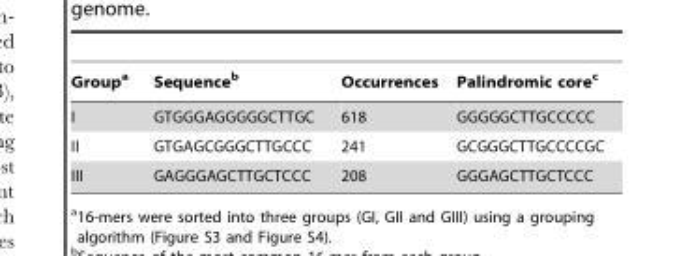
<table><thead><tr><td>Group<sup>a</sup></td><td>Sequence<sup>b</sup></td><td>Occurrences</td><td>Palindromic core<sup>c</sup></td></tr></thead><tbody><tr><td>I</td><td>GTGGGAGGGGGCTTGC</td><td>618</td><td>GGGGGCTTGCCCCC</td></tr><tr><td>II</td><td>GTGAGCGGGCTTGCCC</td><td>241</td><td>GCGGGCTTGCCCCGC</td></tr><tr><td>III</td><td>GAGGGAGCTTGCTCCC</td><td>208</td><td>GGGAGCTTGCTCCC</td></tr></tbody></table>